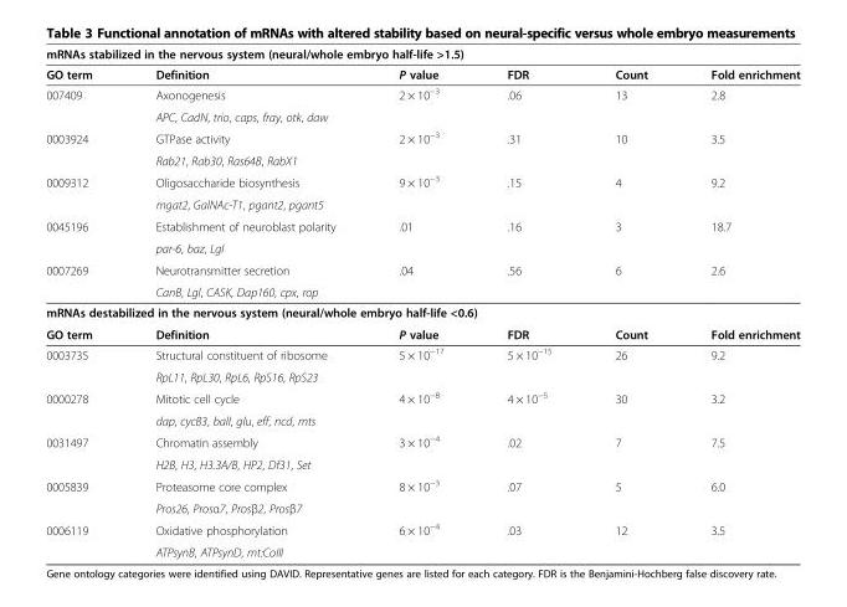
<table><thead><tr><td colspan="6">mRNAs stabilized in the nervous system (neural/whole embryo half-life &gt;1.5)</td></tr><tr><td>GO term</td><td>Definition</td><td>P value</td><td>FDR</td><td>Count</td><td>Fold enrichment</td></tr></thead><tbody><tr><td rowspan="2">007409</td><td>Axonogenesis</td><td>2 × 10<sup>−3</sup></td><td>.06</td><td>13</td><td>2.8</td></tr><tr><td>APC, CadN, trio, caps, fray, otk, daw</td><td></td><td></td><td></td><td></td></tr><tr><td rowspan="2">0003924</td><td>GTPase activity</td><td>2 × 10<sup>−3</sup></td><td>.31</td><td>10</td><td>3.5</td></tr><tr><td>Rab21, Rab30, Ras64B, RabX1</td><td></td><td></td><td></td><td></td></tr><tr><td rowspan="2">0009312</td><td>Oligosaccharide biosynthesis</td><td>9 × 10<sup>−3</sup></td><td>.15</td><td>4</td><td>9.2</td></tr><tr><td>mgat2, GalNAc-T1, pgant2, pgant5</td><td></td><td></td><td></td><td></td></tr><tr><td rowspan="2">0045196</td><td>Establishment of neuroblast polarity</td><td>.01</td><td>.16</td><td>3</td><td>18.7</td></tr><tr><td>par-6, baz, Lgl</td><td></td><td></td><td></td><td></td></tr><tr><td rowspan="2">0007269</td><td>Neurotransmitter secretion</td><td>.04</td><td>.56</td><td>6</td><td>2.6</td></tr><tr><td>CanB, Lgl, CASK, Dap160, cpx, rop</td><td></td><td></td><td></td><td></td></tr><tr><td colspan="6">mRNAs destabilized in the nervous system (neural/whole embryo half-life &lt;0.6)</td></tr><tr><td>GO term</td><td>Definition</td><td>P value</td><td>FDR</td><td>Count</td><td>Fold enrichment</td></tr><tr><td rowspan="2">0003735</td><td>Structural constituent of ribosome</td><td>5 × 10<sup>−17</sup></td><td>5 × 10<sup>−15</sup></td><td>26</td><td>9.2</td></tr><tr><td>RpL11, RpL30, RpL6, RpS16, RpS23</td><td></td><td></td><td></td><td></td></tr><tr><td rowspan="2">0000278</td><td>Mitotic cell cycle</td><td>4 × 10<sup>−8</sup></td><td>4 × 10<sup>−5</sup></td><td>30</td><td>3.2</td></tr><tr><td>dap, cycB3, ball, glu, eff, ncd, mts</td><td></td><td></td><td></td><td></td></tr><tr><td rowspan="2">0031497</td><td>Chromatin assembly</td><td>3 × 10<sup>−4</sup></td><td>.02</td><td>7</td><td>7.5</td></tr><tr><td>H2B, H3, H3.3A/B, HP2, Df31, Set</td><td></td><td></td><td></td><td></td></tr><tr><td rowspan="2">0005839</td><td>Proteasome core complex</td><td>8 × 10<sup>−3</sup></td><td>.07</td><td>5</td><td>6.0</td></tr><tr><td>Pros26, Prosα7, Prosβ2, Prosβ7</td><td></td><td></td><td></td><td></td></tr><tr><td rowspan="2">0006119</td><td>Oxidative phosphorylation</td><td>6 × 10<sup>−4</sup></td><td>.03</td><td>12</td><td>3.5</td></tr><tr><td>ATPsynB, ATPsynD, mt:CoIII</td><td></td><td></td><td></td><td></td></tr></tbody></table>